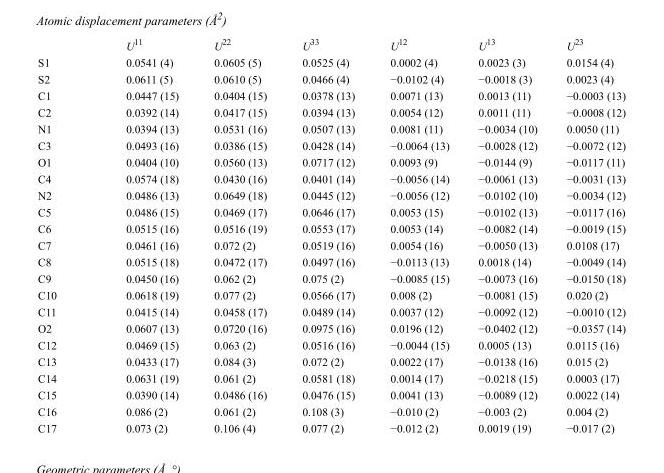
<table><thead><tr><td></td><td>U<sup>11</sup></td><td>U<sup>22</sup></td><td>U<sup>33</sup></td><td>U<sup>12</sup></td><td>U<sup>13</sup></td><td>U<sup>23</sup></td></tr></thead><tbody><tr><td>S1</td><td>0.0541 (4)</td><td>0.0605 (5)</td><td>0.0525 (4)</td><td>0.0002 (4)</td><td>0.0023 (3)</td><td>0.0154 (4)</td></tr><tr><td>S2</td><td>0.0611 (5)</td><td>0.0610 (5)</td><td>0.0466 (4)</td><td>−0.0102 (4)</td><td>−0.0018 (3)</td><td>0.0023 (4)</td></tr><tr><td>C1</td><td>0.0447 (15)</td><td>0.0404 (15)</td><td>0.0378 (13)</td><td>0.0071 (13)</td><td>0.0013 (11)</td><td>−0.0003 (13)</td></tr><tr><td>C2</td><td>0.0392 (14)</td><td>0.0417 (15)</td><td>0.0394 (13)</td><td>0.0054 (12)</td><td>0.0011 (11)</td><td>−0.0008 (12)</td></tr><tr><td>N1</td><td>0.0394 (13)</td><td>0.0531 (16)</td><td>0.0507 (13)</td><td>0.0081 (11)</td><td>−0.0034 (10)</td><td>0.0050 (11)</td></tr><tr><td>C3</td><td>0.0493 (16)</td><td>0.0386 (15)</td><td>0.0428 (14)</td><td>−0.0064 (13)</td><td>−0.0028 (12)</td><td>−0.0072 (12)</td></tr><tr><td>O1</td><td>0.0404 (10)</td><td>0.0560 (13)</td><td>0.0717 (12)</td><td>0.0093 (9)</td><td>−0.0144 (9)</td><td>−0.0117 (11)</td></tr><tr><td>C4</td><td>0.0574 (18)</td><td>0.0430 (16)</td><td>0.0401 (14)</td><td>−0.0056 (14)</td><td>−0.0061 (13)</td><td>−0.0031 (13)</td></tr><tr><td>N2</td><td>0.0486 (13)</td><td>0.0649 (18)</td><td>0.0445 (12)</td><td>−0.0056 (12)</td><td>−0.0102 (10)</td><td>−0.0034 (12)</td></tr><tr><td>C5</td><td>0.0486 (15)</td><td>0.0469 (17)</td><td>0.0646 (17)</td><td>0.0053 (15)</td><td>−0.0102 (13)</td><td>−0.0117 (16)</td></tr><tr><td>C6</td><td>0.0515 (16)</td><td>0.0516 (19)</td><td>0.0553 (17)</td><td>0.0053 (14)</td><td>−0.0082 (14)</td><td>−0.0019 (15)</td></tr><tr><td>C7</td><td>0.0461 (16)</td><td>0.072 (2)</td><td>0.0519 (16)</td><td>0.0054 (16)</td><td>−0.0050 (13)</td><td>0.0108 (17)</td></tr><tr><td>C8</td><td>0.0515 (18)</td><td>0.0472 (17)</td><td>0.0497 (16)</td><td>−0.0113 (13)</td><td>0.0018 (14)</td><td>−0.0049 (14)</td></tr><tr><td>C9</td><td>0.0450 (16)</td><td>0.062 (2)</td><td>0.075 (2)</td><td>−0.0085 (15)</td><td>−0.0073 (16)</td><td>−0.0150 (18)</td></tr><tr><td>C10</td><td>0.0618 (19)</td><td>0.077 (2)</td><td>0.0566 (17)</td><td>0.008 (2)</td><td>−0.0081 (15)</td><td>0.020 (2)</td></tr><tr><td>C11</td><td>0.0415 (14)</td><td>0.0458 (17)</td><td>0.0489 (14)</td><td>0.0037 (12)</td><td>−0.0092 (12)</td><td>−0.0010 (12)</td></tr><tr><td>O2</td><td>0.0607 (13)</td><td>0.0720 (16)</td><td>0.0975 (16)</td><td>0.0196 (12)</td><td>−0.0402 (12)</td><td>−0.0357 (14)</td></tr><tr><td>C12</td><td>0.0469 (15)</td><td>0.063 (2)</td><td>0.0516 (16)</td><td>−0.0044 (15)</td><td>0.0005 (13)</td><td>0.0115 (16)</td></tr><tr><td>C13</td><td>0.0433 (17)</td><td>0.084 (3)</td><td>0.072 (2)</td><td>0.0022 (17)</td><td>−0.0138 (16)</td><td>0.015 (2)</td></tr><tr><td>C14</td><td>0.0631 (19)</td><td>0.061 (2)</td><td>0.0581 (18)</td><td>0.0014 (17)</td><td>−0.0218 (15)</td><td>0.0003 (17)</td></tr><tr><td>C15</td><td>0.0390 (14)</td><td>0.0486 (16)</td><td>0.0476 (15)</td><td>0.0041 (13)</td><td>−0.0089 (12)</td><td>0.0022 (14)</td></tr><tr><td>C16</td><td>0.086 (2)</td><td>0.061 (2)</td><td>0.108 (3)</td><td>−0.010 (2)</td><td>−0.003 (2)</td><td>0.004 (2)</td></tr><tr><td>C17</td><td>0.073 (2)</td><td>0.106 (4)</td><td>0.077 (2)</td><td>−0.012 (2)</td><td>0.0019 (19)</td><td>−0.017 (2)</td></tr></tbody></table>